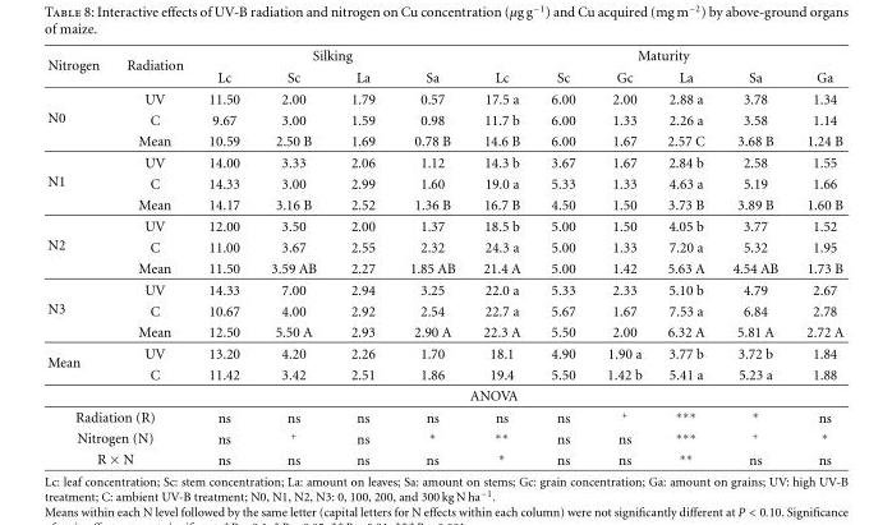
<table><thead><tr><td rowspan="2">Nitrogen</td><td rowspan="2">Radiation</td><td colspan="4">Silking</td><td colspan="6">Maturity</td></tr><tr><td>Lc</td><td>Sc</td><td>La</td><td>Sa</td><td>Lc</td><td>Sc</td><td>Gc</td><td>La</td><td>Sa</td><td>Ga</td></tr></thead><tbody><tr><td rowspan="3">N0</td><td>UV</td><td>11.50</td><td>2.00</td><td>1.79</td><td>0.57</td><td>17.5 a</td><td>6.00</td><td>2.00</td><td>2.88 a</td><td>3.78</td><td>1.34</td></tr><tr><td>C</td><td>9.67</td><td>3.00</td><td>1.59</td><td>0.98</td><td>11.7 b</td><td>6.00</td><td>1.33</td><td>2.26 a</td><td>3.58</td><td>1.14</td></tr><tr><td>Mean</td><td>10.59</td><td>2.50 B</td><td>1.69</td><td>0.78 B</td><td>14.6 B</td><td>6.00</td><td>1.67</td><td>2.57 C</td><td>3.68 B</td><td>1.24 B</td></tr><tr><td rowspan="3">N1</td><td>UV</td><td>14.00</td><td>3.33</td><td>2.06</td><td>1.12</td><td>14.3 b</td><td>3.67</td><td>1.67</td><td>2.84 b</td><td>2.58</td><td>1.55</td></tr><tr><td>C</td><td>14.33</td><td>3.00</td><td>2.99</td><td>1.60</td><td>19.0 a</td><td>5.33</td><td>1.33</td><td>4.63 a</td><td>5.19</td><td>1.66</td></tr><tr><td>Mean</td><td>14.17</td><td>3.16 B</td><td>2.52</td><td>1.36 B</td><td>16.7 B</td><td>4.50</td><td>1.50</td><td>3.73 B</td><td>3.89 B</td><td>1.60 B</td></tr><tr><td rowspan="3">N2</td><td>UV</td><td>12.00</td><td>3.50</td><td>2.00</td><td>1.37</td><td>18.5 b</td><td>5.00</td><td>1.50</td><td>4.05 b</td><td>3.77</td><td>1.52</td></tr><tr><td>C</td><td>11.00</td><td>3.67</td><td>2.55</td><td>2.32</td><td>24.3 a</td><td>5.00</td><td>1.33</td><td>7.20 a</td><td>5.32</td><td>1.95</td></tr><tr><td>Mean</td><td>11.50</td><td>3.59 AB</td><td>2.27</td><td>1.85 AB</td><td>21.4 A</td><td>5.00</td><td>1.42</td><td>5.63 A</td><td>4.54 AB</td><td>1.73 B</td></tr><tr><td rowspan="3">N3</td><td>UV</td><td>14.33</td><td>7.00</td><td>2.94</td><td>3.25</td><td>22.0 a</td><td>5.33</td><td>2.33</td><td>5.10 b</td><td>4.79</td><td>2.67</td></tr><tr><td>C</td><td>10.67</td><td>4.00</td><td>2.92</td><td>2.54</td><td>22.7 a</td><td>5.67</td><td>1.67</td><td>7.53 a</td><td>6.84</td><td>2.78</td></tr><tr><td>Mean</td><td>12.50</td><td>5.50 A</td><td>2.93</td><td>2.90 A</td><td>22.3 A</td><td>5.50</td><td>2.00</td><td>6.32 A</td><td>5.81 A</td><td>2.72 A</td></tr><tr><td rowspan="3">Mean</td><td>UV</td><td>13.20</td><td>4.20</td><td>2.26</td><td>1.70</td><td>18.1</td><td>4.90</td><td>1.90 a</td><td>3.77 b</td><td>3.72 b</td><td>1.84</td></tr><tr><td>C</td><td>11.42</td><td>3.42</td><td>2.51</td><td>1.86</td><td>19.4</td><td>5.50</td><td>1.42 b</td><td>5.41 a</td><td>5.23 a</td><td>1.88</td></tr><tr><td></td><td></td><td></td><td></td><td colspan="3">ANOVA</td><td></td><td></td><td></td><td></td></tr><tr><td colspan="2">Radiation (R)</td><td>ns</td><td>ns</td><td>ns</td><td>ns</td><td>ns</td><td>ns</td><td>+</td><td>∗∗∗</td><td>∗</td><td>ns</td></tr><tr><td colspan="2">Nitrogen (N)</td><td>ns</td><td>+</td><td>ns</td><td>∗</td><td>∗∗</td><td>ns</td><td>ns</td><td>∗∗∗</td><td>+</td><td>∗</td></tr><tr><td colspan="2">R × N</td><td>ns</td><td>ns</td><td>ns</td><td>ns</td><td>∗</td><td>ns</td><td>ns</td><td>∗∗</td><td>ns</td><td>ns</td></tr></tbody></table>